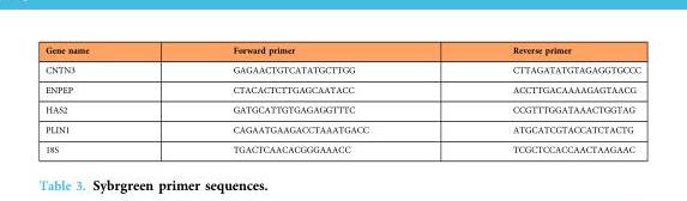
<table><thead><tr><td>Gene name</td><td>Forward primer</td><td>Reverse primer</td></tr></thead><tbody><tr><td>CNTN3</td><td>GAGAACTGTCATATGCTTGG</td><td>CTTAGATATGTAGAGGTGCCC</td></tr><tr><td>ENPEP</td><td>CTACACTCTTGAGCAATACC</td><td>ACCTTGACAAAAGAGTAACG</td></tr><tr><td>HAS2</td><td>GATGCATTGTGAGAGGTTTC</td><td>CCGTTTGGATAAACTGGTAG</td></tr><tr><td>PLIN1</td><td>CAGAATGAAGACCTAAATGACC</td><td>ATGCATCGTACCATCTACTG</td></tr><tr><td>18S</td><td>TGACTCAACACGGGAAACC</td><td>TCGCTCCACCAACTAAGAAC</td></tr></tbody></table>